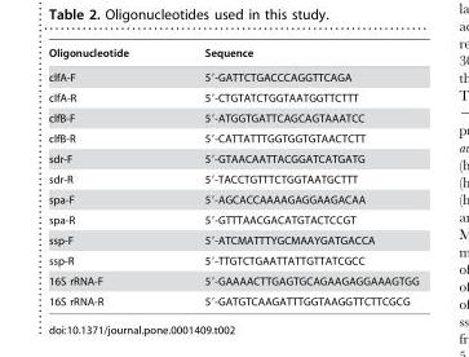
<table><thead><tr><td>Oligonucleotide</td><td>Sequence</td></tr></thead><tbody><tr><td>clfA-F</td><td>5′-GATTCTGACCCAGGTTCAGA</td></tr><tr><td>clfA-R</td><td>5′-CTGTATCTGGTAATGGTTCTTT</td></tr><tr><td>clfB-F</td><td>5′-ATGGTGATTCAGCAGTAAATCC</td></tr><tr><td>clfB-R</td><td>5′-CATTATTTGGTGGTGTAACTCTT</td></tr><tr><td>sdr-F</td><td>5′-GTAACAATTACGGATCATGATG</td></tr><tr><td>sdr-R</td><td>5′-TACCTGTTTCTGGTAATGCTTT</td></tr><tr><td>spa-F</td><td>5′-AGCACCAAAAGAGGAAGACAA</td></tr><tr><td>spa-R</td><td>5′-GTTTAACGACATGTACTCCGT</td></tr><tr><td>ssp-F</td><td>5′-ATCMATTTYGCMAAYGATGACCA</td></tr><tr><td>ssp-R</td><td>5′-TTGTCTGAATTATTGTTATCGCC</td></tr><tr><td>16S rRNA-F</td><td>5′-GAAAACTTGAGTGCAGAAGAGGAAAGTGG</td></tr><tr><td>16S rRNA-R</td><td>5′-GATGTCAAGATTTGGTAAGGTTCTTCGCG</td></tr></tbody></table>